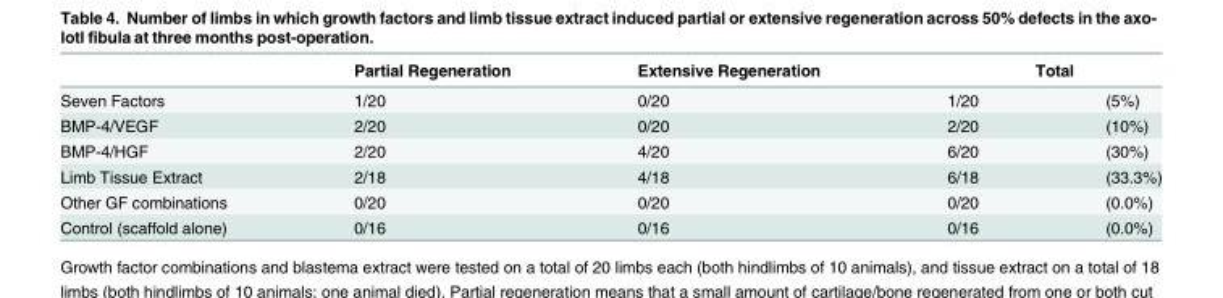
<table><thead><tr><td rowspan="2">Seven Factors</td><td rowspan="2">Partial Regeneration 1/20</td><td rowspan="2">Extensive Regeneration 0/20</td><td colspan="2">Total</td></tr><tr><td>1/20</td><td>(5%)</td></tr></thead><tbody><tr><td>BMP-4/VEGF</td><td>2/20</td><td>0/20</td><td>2/20</td><td>(10%)</td></tr><tr><td>BMP-4/HGF</td><td>2/20</td><td>4/20</td><td>6/20</td><td>(30%)</td></tr><tr><td>Limb Tissue Extract</td><td>2/18</td><td>4/18</td><td>6/18</td><td>(33.3%)</td></tr><tr><td>Other GF combinations</td><td>0/20</td><td>0/20</td><td>0/20</td><td>(0.0%)</td></tr><tr><td>Control (scaffold alone)</td><td>0/16</td><td>0/16</td><td>0/16</td><td>(0.0%)</td></tr></tbody></table>